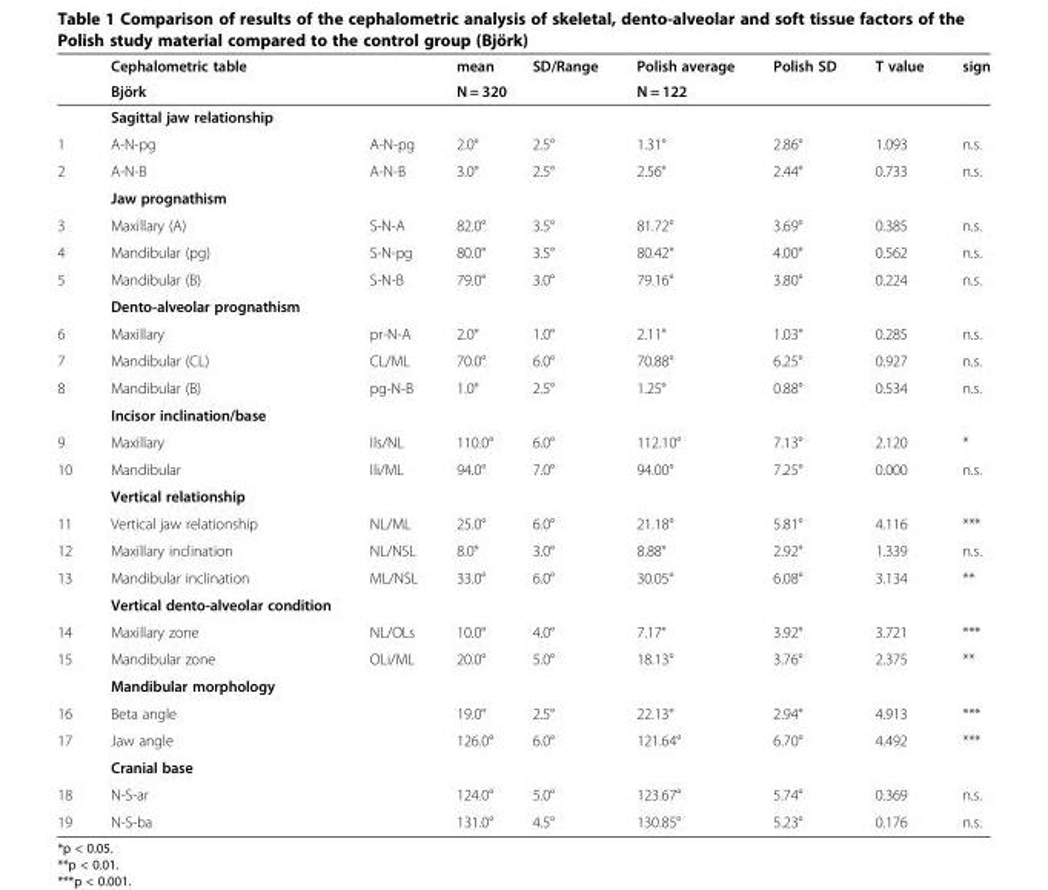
<table><thead><tr><td rowspan="2"></td><td>Cephalometric table</td><td></td><td>mean</td><td>SD/Range</td><td>Polish average</td><td>Polish SD</td><td rowspan="2">T value</td><td rowspan="2">sign</td></tr><tr><td colspan="2">Björk</td><td colspan="2">N = 320</td><td colspan="2">N = 122</td></tr></thead><tbody><tr><td></td><td>Sagittal jaw relationship</td><td></td><td></td><td></td><td></td><td></td><td></td><td></td></tr><tr><td>1</td><td>A-N-pg</td><td>A-N-pg</td><td>2.0°</td><td>2.5°</td><td>1.31°</td><td>2.86°</td><td>1.093</td><td>n.s.</td></tr><tr><td rowspan="2">2</td><td>A-N-B</td><td>A-N-B</td><td>3.0°</td><td>2.5°</td><td>2.56°</td><td>2.44°</td><td>0.733</td><td>n.s.</td></tr><tr><td>Jaw prognathism</td><td></td><td></td><td></td><td></td><td></td><td></td><td></td></tr><tr><td>3</td><td>Maxillary (A)</td><td>S-N-A</td><td>82.0°</td><td>3.5°</td><td>81.72°</td><td>3.69°</td><td>0.385</td><td>n.s.</td></tr><tr><td>4</td><td>Mandibular (pg)</td><td>S-N-pg</td><td>80.0°</td><td>3.5°</td><td>80.42°</td><td>4.00°</td><td>0.562</td><td>n.s.</td></tr><tr><td rowspan="2">5</td><td>Mandibular (B)</td><td>S-N-B</td><td>79.0°</td><td>3.0°</td><td>79.16°</td><td>3.80°</td><td>0.224</td><td>n.s.</td></tr><tr><td>Dento-alveolar prognathism</td><td></td><td></td><td></td><td></td><td></td><td></td><td></td></tr><tr><td>6</td><td>Maxillary</td><td>pr-N-A</td><td>2.0°</td><td>1.0°</td><td>2.11°</td><td>1.03°</td><td>0.285</td><td>n.s.</td></tr><tr><td>7</td><td>Mandibular (CL)</td><td>CL/ML</td><td>70.0°</td><td>6.0°</td><td>70.88°</td><td>6.25°</td><td>0.927</td><td>n.s.</td></tr><tr><td rowspan="2">8</td><td>Mandibular (B)</td><td>pg-N-B</td><td>1.0°</td><td>2.5°</td><td>1.25°</td><td>0.88°</td><td>0.534</td><td>n.s.</td></tr><tr><td>Incisor inclination/base</td><td></td><td></td><td></td><td></td><td></td><td></td><td></td></tr><tr><td>9</td><td>Maxillary</td><td>Ils/NL</td><td>110.0°</td><td>6.0°</td><td>112.10°</td><td>7.13°</td><td>2.120</td><td>*</td></tr><tr><td rowspan="2">10</td><td>Mandibular</td><td>Ili/ML</td><td>94.0°</td><td>7.0°</td><td>94.00°</td><td>7.25°</td><td>0.000</td><td>n.s.</td></tr><tr><td>Vertical relationship</td><td></td><td></td><td></td><td></td><td></td><td></td><td></td></tr><tr><td>11</td><td>Vertical jaw relationship</td><td>NL/ML</td><td>25.0°</td><td>6.0°</td><td>21.18°</td><td>5.81°</td><td>4.116</td><td>***</td></tr><tr><td>12</td><td>Maxillary inclination</td><td>NL/NSL</td><td>8.0°</td><td>3.0°</td><td>8.88°</td><td>2.92°</td><td>1.339</td><td>n.s.</td></tr><tr><td rowspan="2">13</td><td>Mandibular inclination</td><td>ML/NSL</td><td>33.0°</td><td>6.0°</td><td>30.05°</td><td>6.08°</td><td>3.134</td><td>**</td></tr><tr><td>Vertical dento-alveolar condition</td><td></td><td></td><td></td><td></td><td></td><td></td><td></td></tr><tr><td>14</td><td>Maxillary zone</td><td>NL/OLs</td><td>10.0°</td><td>4.0°</td><td>7.17°</td><td>3.92°</td><td>3.721</td><td>***</td></tr><tr><td rowspan="2">15</td><td>Mandibular zone</td><td>OLi/ML</td><td>20.0°</td><td>5.0°</td><td>18.13°</td><td>3.76°</td><td>2.375</td><td>**</td></tr><tr><td>Mandibular morphology</td><td></td><td></td><td></td><td></td><td></td><td></td><td></td></tr><tr><td>16</td><td>Beta angle</td><td></td><td>19.0°</td><td>2.5°</td><td>22.13°</td><td>2.94°</td><td>4.913</td><td>***</td></tr><tr><td rowspan="2">17</td><td>Jaw angle</td><td></td><td>126.0°</td><td>6.0°</td><td>121.64°</td><td>6.70°</td><td>4.492</td><td>***</td></tr><tr><td>Cranial base</td><td></td><td></td><td></td><td></td><td></td><td></td><td></td></tr><tr><td>18</td><td>N-S-ar</td><td></td><td>124.0°</td><td>5.0°</td><td>123.67°</td><td>5.74°</td><td>0.369</td><td>n.s.</td></tr><tr><td>19</td><td>N-S-ba</td><td></td><td>131.0°</td><td>4.5°</td><td>130.85°</td><td>5.23°</td><td>0.176</td><td>n.s.</td></tr></tbody></table>